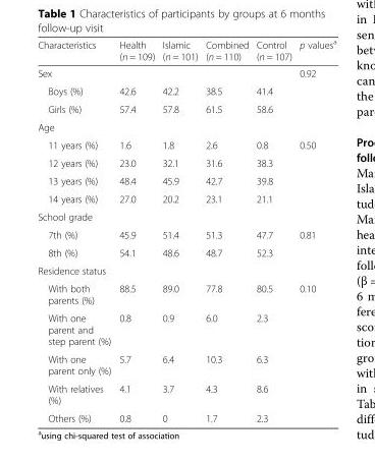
<table><thead><tr><td>Characteristics</td><td>Health (n = 109)</td><td>Islamic (n = 101)</td><td>Combined (n = 110)</td><td>Control (n = 107)</td><td>p values<sup>a</sup></td></tr></thead><tbody><tr><td colspan="5">Sex</td><td rowspan="3">0.92</td></tr><tr><td>Boys (%)</td><td>42.6</td><td>42.2</td><td>38.5</td><td>41.4</td></tr><tr><td>Girls (%)</td><td>57.4</td><td>57.8</td><td>61.5</td><td>58.6</td></tr><tr><td colspan="6">Age</td></tr><tr><td>11 years (%)</td><td>1.6</td><td>1.8</td><td>2.6</td><td>0.8</td><td rowspan="4">0.50</td></tr><tr><td>12 years (%)</td><td>23.0</td><td>32.1</td><td>31.6</td><td>38.3</td></tr><tr><td>13 years (%)</td><td>48.4</td><td>45.9</td><td>42.7</td><td>39.8</td></tr><tr><td>14 years (%)</td><td>27.0</td><td>20.2</td><td>23.1</td><td>21.1</td></tr><tr><td colspan="6">School grade</td></tr><tr><td>7th (%)</td><td>45.9</td><td>51.4</td><td>51.3</td><td>47.7</td><td rowspan="2">0.81</td></tr><tr><td>8th (%)</td><td>54.1</td><td>48.6</td><td>48.7</td><td>52.3</td></tr><tr><td colspan="6">Residence status</td></tr><tr><td>With both parents (%)</td><td>88.5</td><td>89.0</td><td>77.8</td><td>80.5</td><td rowspan="5">0.10</td></tr><tr><td>With one parent and step parent (%)</td><td>0.8</td><td>0.9</td><td>6.0</td><td>2.3</td></tr><tr><td>With one parent only (%)</td><td>5.7</td><td>6.4</td><td>10.3</td><td>6.3</td></tr><tr><td>With relatives (%)</td><td>4.1</td><td>3.7</td><td>4.3</td><td>8.6</td></tr><tr><td>Others (%)</td><td>0.8</td><td>0</td><td>1.7</td><td>2.3</td></tr></tbody></table>